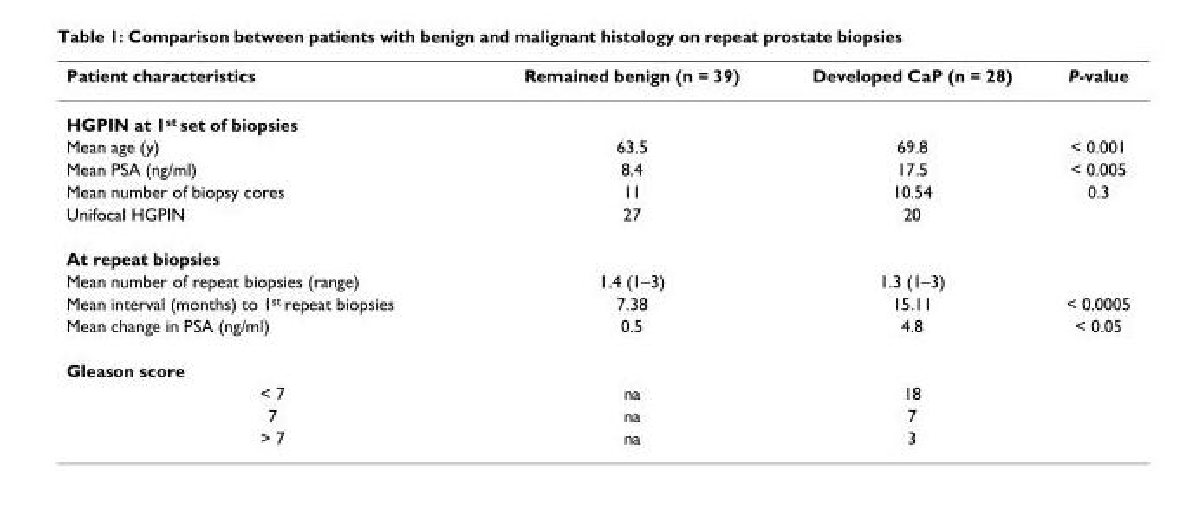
<table><thead><tr><td>Patient characteristics</td><td>Remained benign (n = 39)</td><td>Developed CaP (n = 28)</td><td>P-value</td></tr></thead><tbody><tr><td colspan="4">HGPIN at 1<sup>st</sup> set of biopsies</td></tr><tr><td>Mean age (y)</td><td>63.5</td><td>69.8</td><td>&lt; 0.001</td></tr><tr><td>Mean PSA (ng/ml)</td><td>8.4</td><td>17.5</td><td>&lt; 0.005</td></tr><tr><td>Mean number of biopsy cores</td><td>11</td><td>10.54</td><td>0.3</td></tr><tr><td>Unifocal HGPIN</td><td>27</td><td>20</td><td></td></tr><tr><td colspan="4">At repeat biopsies</td></tr><tr><td>Mean number of repeat biopsies (range)</td><td>1.4 (1–3)</td><td>1.3 (1–3)</td><td></td></tr><tr><td>Mean interval (months) to 1<sup>st</sup> repeat biopsies</td><td>7.38</td><td>15.11</td><td>&lt; 0.0005</td></tr><tr><td>Mean change in PSA (ng/ml)</td><td>0.5</td><td>4.8</td><td>&lt; 0.05</td></tr><tr><td colspan="4">Gleason score</td></tr><tr><td>&lt; 7</td><td>na</td><td>18</td><td></td></tr><tr><td>7</td><td>na</td><td>7</td><td></td></tr><tr><td>&gt; 7</td><td>na</td><td>3</td><td></td></tr></tbody></table>